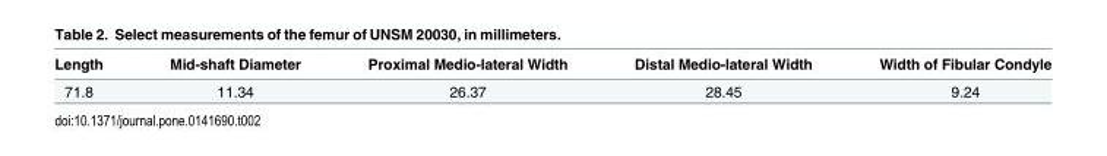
<table><thead><tr><td>Length</td><td>Mid-shaft Diameter</td><td>Proximal Medio-lateral Width</td><td>Distal Medio-lateral Width</td><td>Width of Fibular Condyle</td></tr></thead><tbody><tr><td>71.8</td><td>11.34</td><td>26.37</td><td>28.45</td><td>9.24</td></tr></tbody></table>